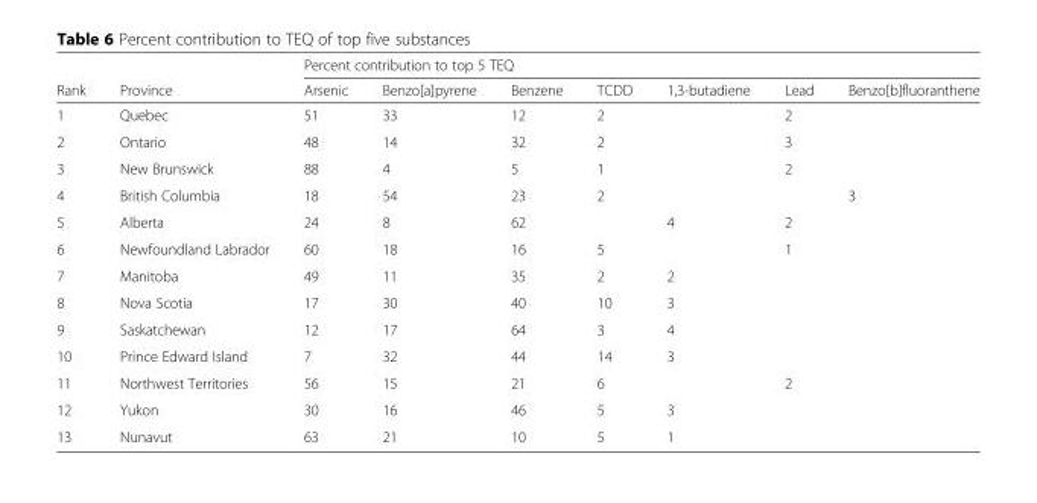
<table><thead><tr><td rowspan="2">Rank</td><td rowspan="2">Province</td><td colspan="7">Percent contribution to top 5 TEQ</td></tr><tr><td>Arsenic</td><td>Benzo[a]pyrene</td><td>Benzene</td><td>TCDD</td><td>1,3-butadiene</td><td>Lead</td><td>Benzo[b]fluoranthene</td></tr></thead><tbody><tr><td>1</td><td>Quebec</td><td>51</td><td>33</td><td>12</td><td>2</td><td></td><td>2</td><td></td></tr><tr><td>2</td><td>Ontario</td><td>48</td><td>14</td><td>32</td><td>2</td><td></td><td>3</td><td></td></tr><tr><td>3</td><td>New Brunswick</td><td>88</td><td>4</td><td>5</td><td>1</td><td></td><td>2</td><td></td></tr><tr><td>4</td><td>British Columbia</td><td>18</td><td>54</td><td>23</td><td>2</td><td></td><td></td><td>3</td></tr><tr><td>5</td><td>Alberta</td><td>24</td><td>8</td><td>62</td><td></td><td>4</td><td>2</td><td></td></tr><tr><td>6</td><td>Newfoundland Labrador</td><td>60</td><td>18</td><td>16</td><td>5</td><td></td><td>1</td><td></td></tr><tr><td>7</td><td>Manitoba</td><td>49</td><td>11</td><td>35</td><td>2</td><td>2</td><td></td><td></td></tr><tr><td>8</td><td>Nova Scotia</td><td>17</td><td>30</td><td>40</td><td>10</td><td>3</td><td></td><td></td></tr><tr><td>9</td><td>Saskatchewan</td><td>12</td><td>17</td><td>64</td><td>3</td><td>4</td><td></td><td></td></tr><tr><td>10</td><td>Prince Edward Island</td><td>7</td><td>32</td><td>44</td><td>14</td><td>3</td><td></td><td></td></tr><tr><td>11</td><td>Northwest Territories</td><td>56</td><td>15</td><td>21</td><td>6</td><td></td><td>2</td><td></td></tr><tr><td>12</td><td>Yukon</td><td>30</td><td>16</td><td>46</td><td>5</td><td>3</td><td></td><td></td></tr><tr><td>13</td><td>Nunavut</td><td>63</td><td>21</td><td>10</td><td>5</td><td>1</td><td></td><td></td></tr></tbody></table>